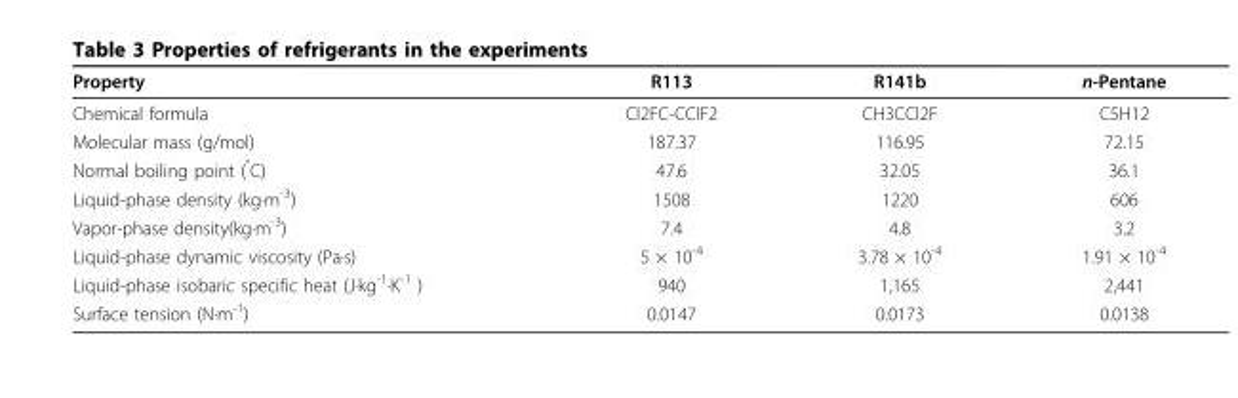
<table><thead><tr><td>Property</td><td>R113</td><td>R141b</td><td>n-Pentane</td></tr></thead><tbody><tr><td>Chemical formula</td><td>Cl2FC-CClF2</td><td>CH3CCl2F</td><td>C5H12</td></tr><tr><td>Molecular mass (g/mol)</td><td>187.37</td><td>116.95</td><td>72.15</td></tr><tr><td>Normal boiling point (<sup>°</sup>C)</td><td>47.6</td><td>32.05</td><td>36.1</td></tr><tr><td>Liquid-phase density (kg·m<sup>-3</sup>)</td><td>1508</td><td>1220</td><td>606</td></tr><tr><td>Vapor-phase density(kg·m<sup>-3</sup>)</td><td>7.4</td><td>4.8</td><td>3.2</td></tr><tr><td>Liquid-phase dynamic viscosity (Pa·s)</td><td>5 × 10<sup>-4</sup></td><td>3.78 × 10<sup>-4</sup></td><td>1.91 × 10<sup>-4</sup></td></tr><tr><td>Liquid-phase isobaric specific heat (J·kg<sup>-1</sup>·K<sup>-1</sup> )</td><td>940</td><td>1,165</td><td>2,441</td></tr><tr><td>Surface tension (N·m<sup>-1</sup>)</td><td>0.0147</td><td>0.0173</td><td>0.0138</td></tr></tbody></table>